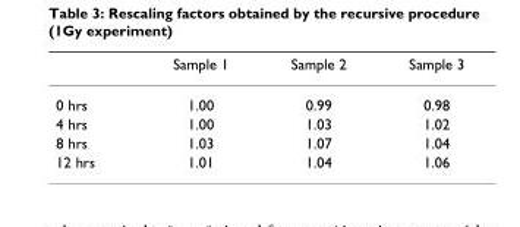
<table><thead><tr><td></td><td>Sample 1</td><td>Sample 2</td><td>Sample 3</td></tr></thead><tbody><tr><td>0 hrs</td><td>1.00</td><td>0.99</td><td>0.98</td></tr><tr><td>4 hrs</td><td>1.00</td><td>1.03</td><td>1.02</td></tr><tr><td>8 hrs</td><td>1.03</td><td>1.07</td><td>1.04</td></tr><tr><td>12 hrs</td><td>1.01</td><td>1.04</td><td>1.06</td></tr></tbody></table>